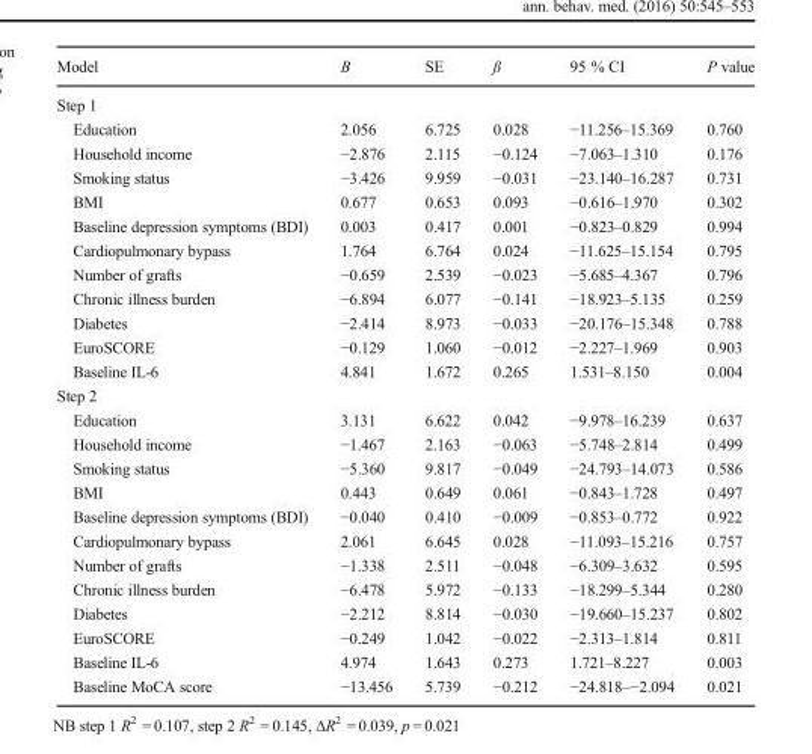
<table><thead><tr><td>Model</td><td>B</td><td>SE</td><td>ß</td><td>95 % CI</td><td>P value</td></tr></thead><tbody><tr><td colspan="6">Step 1</td></tr><tr><td>Education</td><td>2.056</td><td>6.725</td><td>0.028</td><td>−11.256–15.369</td><td>0.760</td></tr><tr><td>Household income</td><td>−2.876</td><td>2.115</td><td>−0.124</td><td>−7.063–1.310</td><td>0.176</td></tr><tr><td>Smoking status</td><td>−3.426</td><td>9.959</td><td>−0.031</td><td>−23.140–16.287</td><td>0.731</td></tr><tr><td>BMI</td><td>0.677</td><td>0.653</td><td>0.093</td><td>−0.616–1.970</td><td>0.302</td></tr><tr><td>Baseline depression symptoms (BDI)</td><td>0.003</td><td>0.417</td><td>0.001</td><td>−0.823–0.829</td><td>0.994</td></tr><tr><td>Cardiopulmonary bypass</td><td>1.764</td><td>6.764</td><td>0.024</td><td>−11.625–15.154</td><td>0.795</td></tr><tr><td>Number of grafts</td><td>−0.659</td><td>2.539</td><td>−0.023</td><td>−5.685–4.367</td><td>0.796</td></tr><tr><td>Chronic illness burden</td><td>−6.894</td><td>6.077</td><td>−0.141</td><td>−18.923–5.135</td><td>0.259</td></tr><tr><td>Diabetes</td><td>−2.414</td><td>8.973</td><td>−0.033</td><td>−20.176–15.348</td><td>0.788</td></tr><tr><td>EuroSCORE</td><td>−0.129</td><td>1.060</td><td>−0.012</td><td>−2.227–1.969</td><td>0.903</td></tr><tr><td>Baseline IL-6</td><td>4.841</td><td>1.672</td><td>0.265</td><td>1.531–8.150</td><td>0.004</td></tr><tr><td colspan="6">Step 2</td></tr><tr><td>Education</td><td>3.131</td><td>6.622</td><td>0.042</td><td>−9.978–16.239</td><td>0.637</td></tr><tr><td>Household income</td><td>−1.467</td><td>2.163</td><td>−0.063</td><td>−5.748–2.814</td><td>0.499</td></tr><tr><td>Smoking status</td><td>−5.360</td><td>9.817</td><td>−0.049</td><td>−24.793–14.073</td><td>0.586</td></tr><tr><td>BMI</td><td>0.443</td><td>0.649</td><td>0.061</td><td>−0.843–1.728</td><td>0.497</td></tr><tr><td>Baseline depression symptoms (BDI)</td><td>−0.040</td><td>0.410</td><td>−0.009</td><td>−0.853–0.772</td><td>0.922</td></tr><tr><td>Cardiopulmonary bypass</td><td>2.061</td><td>6.645</td><td>0.028</td><td>−11.093–15.216</td><td>0.757</td></tr><tr><td>Number of grafts</td><td>−1.338</td><td>2.511</td><td>−0.048</td><td>−6.309–3.632</td><td>0.595</td></tr><tr><td>Chronic illness burden</td><td>−6.478</td><td>5.972</td><td>−0.133</td><td>−18.299–5.344</td><td>0.280</td></tr><tr><td>Diabetes</td><td>−2.212</td><td>8.814</td><td>−0.030</td><td>−19.660–15.237</td><td>0.802</td></tr><tr><td>EuroSCORE</td><td>−0.249</td><td>1.042</td><td>−0.022</td><td>−2.313–1.814</td><td>0.811</td></tr><tr><td>Baseline IL-6</td><td>4.974</td><td>1.643</td><td>0.273</td><td>1.721–8.227</td><td>0.003</td></tr><tr><td>Baseline MoCA score</td><td>−13.456</td><td>5.739</td><td>−0.212</td><td>−24.818–−2.094</td><td>0.021</td></tr></tbody></table>